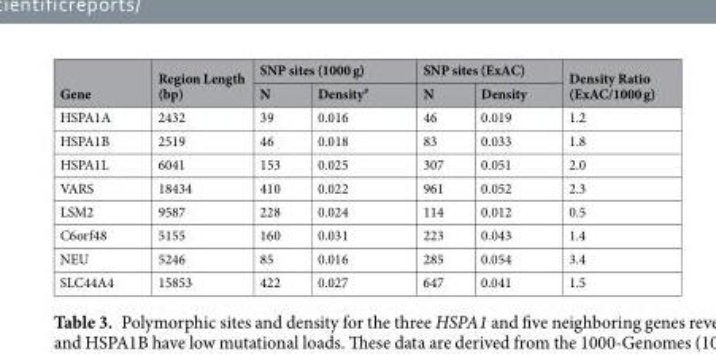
<table><thead><tr><td rowspan="2">Gene</td><td rowspan="2">Region Length (bp)</td><td colspan="2">SNP sites (1000 g)</td><td colspan="2">SNP sites (ExAC)</td><td rowspan="2">Density Ratio (ExAC/1000 g)</td></tr><tr><td>N</td><td>Density<sup>#</sup></td><td>N</td><td>Density</td></tr></thead><tbody><tr><td>HSPA1A</td><td>2432</td><td>39</td><td>0.016</td><td>46</td><td>0.019</td><td>1.2</td></tr><tr><td>HSPA1B</td><td>2519</td><td>46</td><td>0.018</td><td>83</td><td>0.033</td><td>1.8</td></tr><tr><td>HSPA1L</td><td>6041</td><td>153</td><td>0.025</td><td>307</td><td>0.051</td><td>2.0</td></tr><tr><td>VARS</td><td>18434</td><td>410</td><td>0.022</td><td>961</td><td>0.052</td><td>2.3</td></tr><tr><td>LSM2</td><td>9587</td><td>228</td><td>0.024</td><td>114</td><td>0.012</td><td>0.5</td></tr><tr><td>C6orf48</td><td>5155</td><td>160</td><td>0.031</td><td>223</td><td>0.043</td><td>1.4</td></tr><tr><td>NEU</td><td>5246</td><td>85</td><td>0.016</td><td>285</td><td>0.054</td><td>3.4</td></tr><tr><td>SLC44A4</td><td>15853</td><td>422</td><td>0.027</td><td>647</td><td>0.041</td><td>1.5</td></tr></tbody></table>